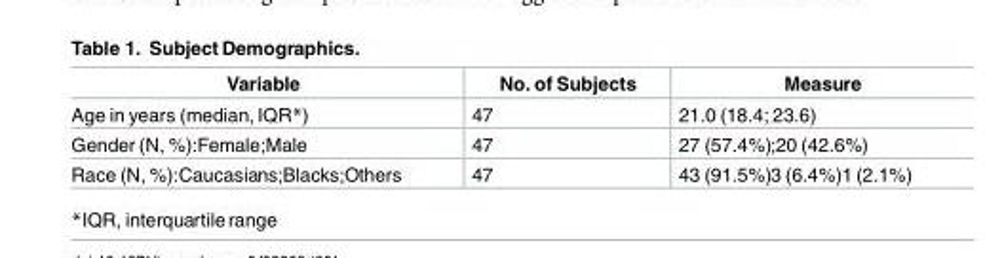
<table><thead><tr><td>Variable</td><td>No. of Subjects</td><td>Measure</td></tr></thead><tbody><tr><td>Age in years (median, IQR*)</td><td>47</td><td>21.0 (18.4; 23.6)</td></tr><tr><td>Gender (N, %):Female;Male</td><td>47</td><td>27 (57.4%);20 (42.6%)</td></tr><tr><td>Race (N, %):Caucasians;Blacks;Others</td><td>47</td><td>43 (91.5%)3 (6.4%)1 (2.1%)</td></tr></tbody></table>